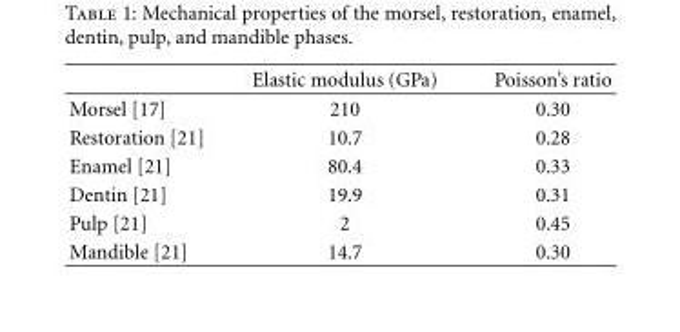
<table><thead><tr><td></td><td>Elastic modulus (GPa)</td><td>Poisson’s ratio</td></tr></thead><tbody><tr><td>Morsel [17]</td><td>210</td><td>0.30</td></tr><tr><td>Restoration [21]</td><td>10.7</td><td>0.28</td></tr><tr><td>Enamel [21]</td><td>80.4</td><td>0.33</td></tr><tr><td>Dentin [21]</td><td>19.9</td><td>0.31</td></tr><tr><td>Pulp [21]</td><td>2</td><td>0.45</td></tr><tr><td>Mandible [21]</td><td>14.7</td><td>0.30</td></tr></tbody></table>